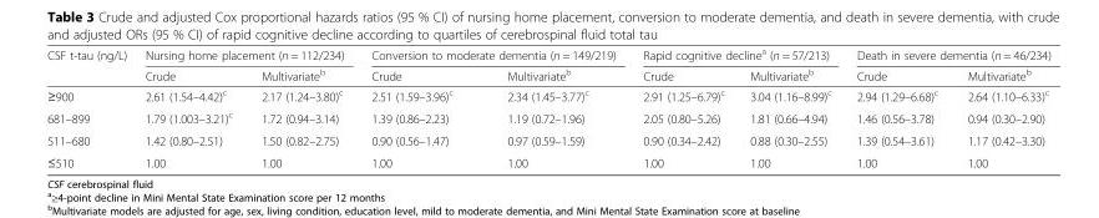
<table><thead><tr><td rowspan="2">CSF t-tau (ng/L)</td><td colspan="2">Nursing home placement (n = 112/234)</td><td colspan="2">Conversion to moderate dementia (n = 149/219)</td><td colspan="2">Rapid cognitive decline<sup>a</sup> (n = 57/213)</td><td colspan="2">Death in severe dementia (n = 46/234)</td></tr><tr><td>Crude</td><td>Multivariate<sup>b</sup></td><td>Crude</td><td>Multivariate<sup>b</sup></td><td>Crude</td><td>Multivariate<sup>b</sup></td><td>Crude</td><td>Multivariate<sup>b</sup></td></tr></thead><tbody><tr><td>≥900</td><td>2.61 (1.54–4.42)<sup>c</sup></td><td>2.17 (1.24–3.80)<sup>c</sup></td><td>2.51 (1.59–3.96)<sup>c</sup></td><td>2.34 (1.45–3.77)<sup>c</sup></td><td>2.91 (1.25–6.79)<sup>c</sup></td><td>3.04 (1.16–8.99)<sup>c</sup></td><td>2.94 (1.29–6.68)<sup>c</sup></td><td>2.64 (1.10–6.33)<sup>c</sup></td></tr><tr><td>681–899</td><td>1.79 (1.003–3.21)<sup>c</sup></td><td>1.72 (0.94–3.14)</td><td>1.39 (0.86–2.23)</td><td>1.19 (0.72–1.96)</td><td>2.05 (0.80–5.26)</td><td>1.81 (0.66–4.94)</td><td>1.46 (0.56–3.78)</td><td>0.94 (0.30–2.90)</td></tr><tr><td>511–680</td><td>1.42 (0.80–2.51)</td><td>1.50 (0.82–2.75)</td><td>0.90 (0.56–1.47)</td><td>0.97 (0.59–1.59)</td><td>0.90 (0.34–2.42)</td><td>0.88 (0.30–2.55)</td><td>1.39 (0.54–3.61)</td><td>1.17 (0.42–3.30)</td></tr><tr><td>≤510</td><td>1.00</td><td>1.00</td><td>1.00</td><td>1.00</td><td>1.00</td><td>1.00</td><td>1.00</td><td>1.00</td></tr></tbody></table>